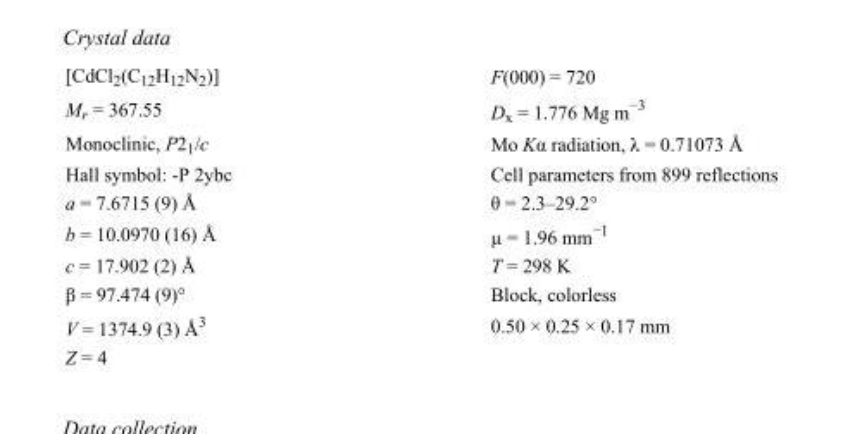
<table><tbody><tr><td>[CdCl<sub>2</sub>(C<sub>12</sub>H<sub>12</sub>N<sub>2</sub>)]</td><td>F(000) = 720</td></tr><tr><td>M<sub>r</sub> = 367.55</td><td>D<sub>x</sub> = 1.776 Mg m<sup>−3</sup></td></tr><tr><td>Monoclinic, P2<sub>1</sub>/c</td><td>Mo Kα radiation, λ = 0.71073 Å</td></tr><tr><td>Hall symbol: -P 2ybc</td><td>Cell parameters from 899 reflections</td></tr><tr><td>a = 7.6715 (9) Å</td><td>θ = 2.3–29.2°</td></tr><tr><td>b = 10.0970 (16) Å</td><td>µ = 1.96 mm<sup>−1</sup></td></tr><tr><td>c = 17.902 (2) Å</td><td>T = 298 K</td></tr><tr><td>β = 97.474 (9)°</td><td>Block, colorless</td></tr><tr><td>V = 1374.9 (3) Å<sup>3</sup></td><td>0.50 × 0.25 × 0.17 mm</td></tr><tr><td>Z = 4</td><td></td></tr></tbody></table>